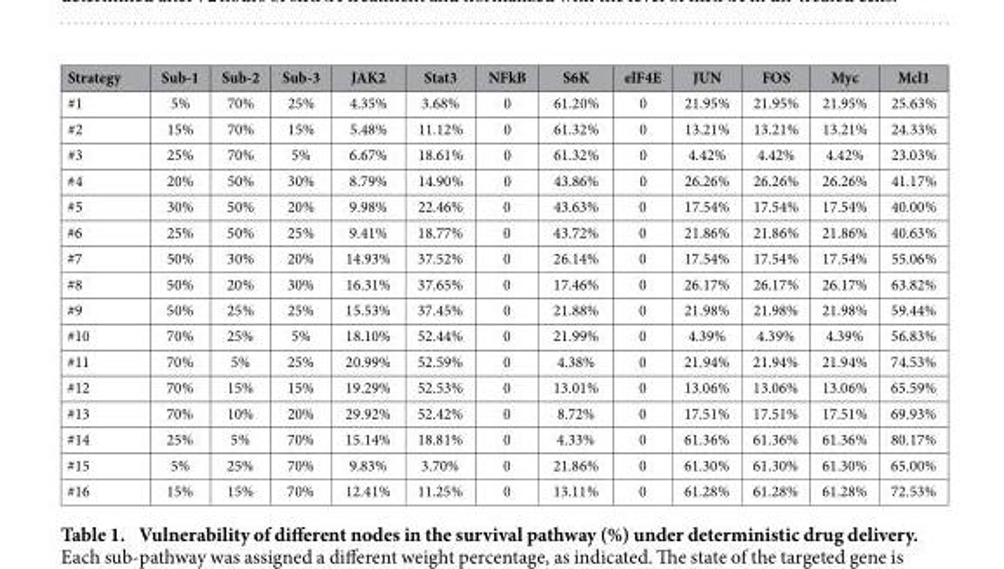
<table><thead><tr><td>Strategy</td><td>Sub-1</td><td>Sub-2</td><td>Sub-3</td><td>JAK2</td><td>Stat3</td><td>NFkB</td><td>S6K</td><td>elF4E</td><td>JUN</td><td>FOS</td><td>Myc</td><td>Mcl1</td></tr></thead><tbody><tr><td>#1</td><td>5%</td><td>70%</td><td>25%</td><td>4.35%</td><td>3.68%</td><td>0</td><td>61.20%</td><td>0</td><td>21.95%</td><td>21.95%</td><td>21.95%</td><td>25.63%</td></tr><tr><td>#2</td><td>15%</td><td>70%</td><td>15%</td><td>5.48%</td><td>11.12%</td><td>0</td><td>61.32%</td><td>0</td><td>13.21%</td><td>13.21%</td><td>13.21%</td><td>24.33%</td></tr><tr><td>#3</td><td>25%</td><td>70%</td><td>5%</td><td>6.67%</td><td>18.61%</td><td>0</td><td>61.32%</td><td>0</td><td>4.42%</td><td>4.42%</td><td>4.42%</td><td>23.03%</td></tr><tr><td>#4</td><td>20%</td><td>50%</td><td>30%</td><td>8.79%</td><td>14.90%</td><td>0</td><td>43.86%</td><td>0</td><td>26.26%</td><td>26.26%</td><td>26.26%</td><td>41.17%</td></tr><tr><td>#5</td><td>30%</td><td>50%</td><td>20%</td><td>9.98%</td><td>22.46%</td><td>0</td><td>43.63%</td><td>0</td><td>17.54%</td><td>17.54%</td><td>17.54%</td><td>40.00%</td></tr><tr><td>#6</td><td>25%</td><td>50%</td><td>25%</td><td>9.41%</td><td>18.77%</td><td>0</td><td>43.72%</td><td>0</td><td>21.86%</td><td>21.86%</td><td>21.86%</td><td>40.63%</td></tr><tr><td>#7</td><td>50%</td><td>30%</td><td>20%</td><td>14.93%</td><td>37.52%</td><td>0</td><td>26.14%</td><td>0</td><td>17.54%</td><td>17.54%</td><td>17.54%</td><td>55.06%</td></tr><tr><td>#8</td><td>50%</td><td>20%</td><td>30%</td><td>16.31%</td><td>37.65%</td><td>0</td><td>17.46%</td><td>0</td><td>26.17%</td><td>26.17%</td><td>26.17%</td><td>63.82%</td></tr><tr><td>#9</td><td>50%</td><td>25%</td><td>25%</td><td>15.53%</td><td>37.45%</td><td>0</td><td>21.88%</td><td>0</td><td>21.98%</td><td>21.98%</td><td>21.98%</td><td>59.44%</td></tr><tr><td>#10</td><td>70%</td><td>25%</td><td>5%</td><td>18.10%</td><td>52.44%</td><td>0</td><td>21.99%</td><td>0</td><td>4.39%</td><td>4.39%</td><td>4.39%</td><td>56.83%</td></tr><tr><td>#11</td><td>70%</td><td>5%</td><td>25%</td><td>20.99%</td><td>52.59%</td><td>0</td><td>4.38%</td><td>0</td><td>21.94%</td><td>21.94%</td><td>21.94%</td><td>74.53%</td></tr><tr><td>#12</td><td>70%</td><td>15%</td><td>15%</td><td>19.29%</td><td>52.53%</td><td>0</td><td>13.01%</td><td>0</td><td>13.06%</td><td>13.06%</td><td>13.06%</td><td>65.59%</td></tr><tr><td>#13</td><td>70%</td><td>10%</td><td>20%</td><td>29.92%</td><td>52.42%</td><td>0</td><td>8.72%</td><td>0</td><td>17.51%</td><td>17.51%</td><td>17.51%</td><td>69.93%</td></tr><tr><td>#14</td><td>25%</td><td>5%</td><td>70%</td><td>15.14%</td><td>18.81%</td><td>0</td><td>4.33%</td><td>0</td><td>61.36%</td><td>61.36%</td><td>61.36%</td><td>80.17%</td></tr><tr><td>#15</td><td>5%</td><td>25%</td><td>70%</td><td>9.83%</td><td>3.70%</td><td>0</td><td>21.86%</td><td>0</td><td>61.30%</td><td>61.30%</td><td>61.30%</td><td>65.00%</td></tr><tr><td>#16</td><td>15%</td><td>15%</td><td>70%</td><td>12.41%</td><td>11.25%</td><td>0</td><td>13.11%</td><td>0</td><td>61.28%</td><td>61.28%</td><td>61.28%</td><td>72.53%</td></tr></tbody></table>